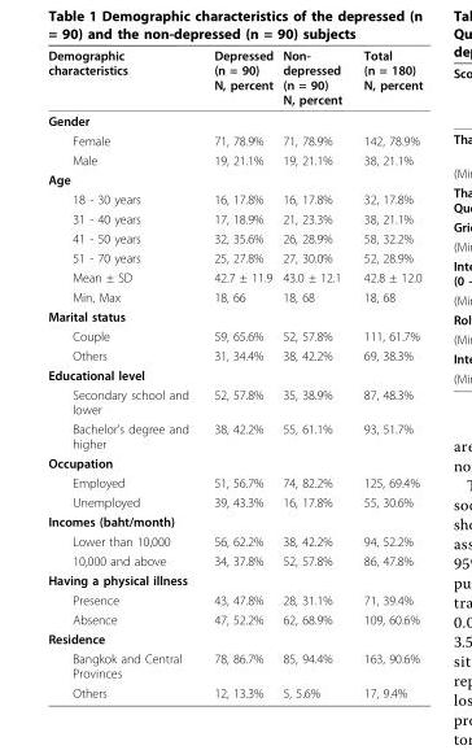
<table><thead><tr><td>Demographic characteristics</td><td>Depressed (n = 90) N, percent</td><td>Non- depressed (n = 90) N, percent</td><td>Total (n = 180) N, percent</td></tr></thead><tbody><tr><td colspan="4">Gender</td></tr><tr><td>Female</td><td>71, 78.9%</td><td>71, 78.9%</td><td>142, 78.9%</td></tr><tr><td>Male</td><td>19, 21.1%</td><td>19, 21.1%</td><td>38, 21.1%</td></tr><tr><td colspan="4">Age</td></tr><tr><td>18 - 30 years</td><td>16, 17.8%</td><td>16, 17.8%</td><td>32, 17.8%</td></tr><tr><td>31 - 40 years</td><td>17, 18.9%</td><td>21, 23.3%</td><td>38, 21.1%</td></tr><tr><td>41 - 50 years</td><td>32, 35.6%</td><td>26, 28.9%</td><td>58, 32.2%</td></tr><tr><td>51 - 70 years</td><td>25, 27.8%</td><td>27, 30.0%</td><td>52, 28.9%</td></tr><tr><td>Mean ± SD</td><td>42.7 ± 11.9</td><td>43.0 ± 12.1</td><td>42.8 ± 12.0</td></tr><tr><td>Min, Max</td><td>18, 66</td><td>18, 68</td><td>18, 68</td></tr><tr><td colspan="4">Marital status</td></tr><tr><td>Couple</td><td>59, 65.6%</td><td>52, 57.8%</td><td>111, 61.7%</td></tr><tr><td>Others</td><td>31, 34.4%</td><td>38, 42.2%</td><td>69, 38.3%</td></tr><tr><td colspan="4">Educational level</td></tr><tr><td>Secondary school and lower</td><td>52, 57.8%</td><td>35, 38.9%</td><td>87, 48.3%</td></tr><tr><td>Bachelor’s degree and higher</td><td>38, 42.2%</td><td>55, 61.1%</td><td>93, 51.7%</td></tr><tr><td colspan="4">Occupation</td></tr><tr><td>Employed</td><td>51, 56.7%</td><td>74, 82.2%</td><td>125, 69.4%</td></tr><tr><td>Unemployed</td><td>39, 43.3%</td><td>16, 17.8%</td><td>55, 30.6%</td></tr><tr><td colspan="4">Incomes (baht/month)</td></tr><tr><td>Lower than 10,000</td><td>56, 62.2%</td><td>38, 42.2%</td><td>94, 52.2%</td></tr><tr><td>10,000 and above</td><td>34, 37.8%</td><td>52, 57.8%</td><td>86, 47.8%</td></tr><tr><td colspan="4">Having a physical illness</td></tr><tr><td>Presence</td><td>43, 47.8%</td><td>28, 31.1%</td><td>71, 39.4%</td></tr><tr><td>Absence</td><td>47, 52.2%</td><td>62, 68.9%</td><td>109, 60.6%</td></tr><tr><td colspan="4">Residence</td></tr><tr><td>Bangkok and Central Provinces</td><td>78, 86.7%</td><td>85, 94.4%</td><td>163, 90.6%</td></tr><tr><td>Others</td><td>12, 13.3%</td><td>5, 5.6%</td><td>17, 9.4%</td></tr></tbody></table>